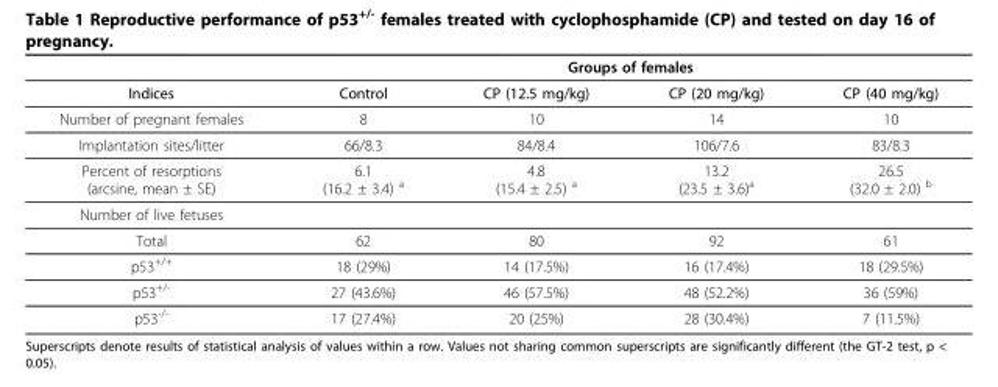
<table><thead><tr><td rowspan="2">Indices</td><td colspan="4">Groups of females</td></tr><tr><td>Control</td><td>CP (12.5 mg/kg)</td><td>CP (20 mg/kg)</td><td>CP (40 mg/kg)</td></tr></thead><tbody><tr><td>Number of pregnant females</td><td>8</td><td>10</td><td>14</td><td>10</td></tr><tr><td>Implantation sites/litter</td><td>66/8.3</td><td>84/8.4</td><td>106/7.6</td><td>83/8.3</td></tr><tr><td>Percent of resorptions (arcsine, mean ± SE)</td><td>6.1 (16.2 ± 3.4) <sup>a</sup></td><td>4.8 (15.4 ± 2.5) <sup>a</sup></td><td>13.2 (23.5 ± 3.6)<sup>a</sup></td><td>26.5 (32.0 ± 2.0) <sup>b</sup></td></tr><tr><td colspan="5">Number of live fetuses</td></tr><tr><td>Total</td><td>62</td><td>80</td><td>92</td><td>61</td></tr><tr><td>p53<sup>+/+</sup></td><td>18 (29%)</td><td>14 (17.5%)</td><td>16 (17.4%)</td><td>18 (29.5%)</td></tr><tr><td>p53<sup>+/-</sup></td><td>27 (43.6%)</td><td>46 (57.5%)</td><td>48 (52.2%)</td><td>36 (59%)</td></tr><tr><td>p53<sup>-/-</sup></td><td>17 (27.4%)</td><td>20 (25%)</td><td>28 (30.4%)</td><td>7 (11.5%)</td></tr></tbody></table>